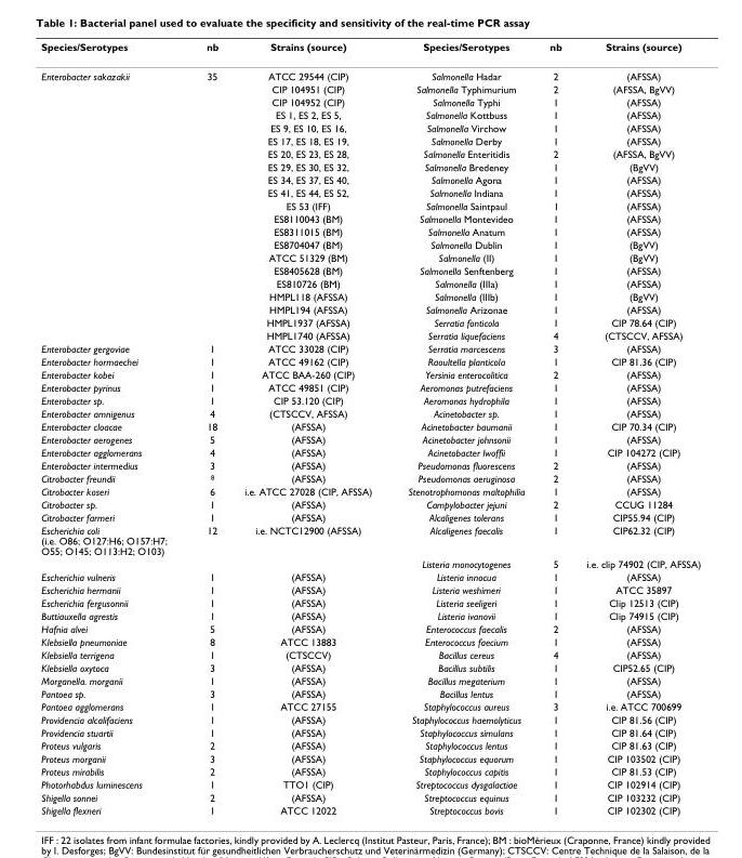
<table><thead><tr><td>Species/Serotypes</td><td>nb</td><td>Strains (source)</td><td>Species/Serotypes</td><td>nb</td><td>Strains (source)</td></tr></thead><tbody><tr><td rowspan="21">Enterobacter sakazakii</td><td>35</td><td>ATCC 29544 (CIP)</td><td>Salmonella Hadar</td><td>2</td><td>(AFSSA)</td></tr><tr><td></td><td>CIP 104951 (CIP)</td><td>Salmonella Typhimurium</td><td>2</td><td>(AFSSA, BgVV)</td></tr><tr><td></td><td>CIP 104952 (CIP)</td><td>Salmonella Typhi</td><td>1</td><td>(AFSSA)</td></tr><tr><td></td><td>ES 1, ES 2, ES 5,</td><td>Salmonella Kottbuss</td><td>1</td><td>(AFSSA)</td></tr><tr><td></td><td>ES 9, ES 10, ES 16,</td><td>Salmonella Virchow</td><td>1</td><td>(AFSSA)</td></tr><tr><td></td><td>ES 17, ES 18, ES 19,</td><td>Salmonella Derby</td><td>1</td><td>(AFSSA)</td></tr><tr><td></td><td>ES 20, ES 23, ES 28,</td><td>Salmonella Enteritidis</td><td>2</td><td>(AFSSA, BgVV)</td></tr><tr><td></td><td>ES 29, ES 30, ES 32,</td><td>Salmonella Bredeney</td><td>1</td><td>(BgVV)</td></tr><tr><td></td><td>ES 34, ES 37, ES 40,</td><td>Salmonella Agona</td><td>1</td><td>(AFSSA)</td></tr><tr><td></td><td>ES 41, ES 44, ES 52,</td><td>Salmonella Indiana</td><td>1</td><td>(AFSSA)</td></tr><tr><td></td><td>ES 53 (IFF)</td><td>Salmonella Saintpaul</td><td>1</td><td>(AFSSA)</td></tr><tr><td></td><td>ES8110043 (BM)</td><td>Salmonella Montevideo</td><td>1</td><td>(AFSSA)</td></tr><tr><td></td><td>ES8311015 (BM)</td><td>Salmonella Anatum</td><td>1</td><td>(AFSSA)</td></tr><tr><td></td><td>ES8704047 (BM)</td><td>Salmonella Dublin</td><td>1</td><td>(BgVV)</td></tr><tr><td></td><td>ATCC 51329 (BM)</td><td>Salmonella (II)</td><td>1</td><td>(BgVV)</td></tr><tr><td></td><td>ES8405628 (BM)</td><td>Salmonella Senftenberg</td><td>1</td><td>(AFSSA)</td></tr><tr><td></td><td>ES810726 (BM)</td><td>Salmonella (IIIa)</td><td>1</td><td>(AFSSA)</td></tr><tr><td></td><td>HMPL118 (AFSSA)</td><td>Salmonella (IIIb)</td><td>1</td><td>(BgVV)</td></tr><tr><td></td><td>HMPL194 (AFSSA)</td><td>Salmonella Arizonae</td><td>1</td><td>(AFSSA)</td></tr><tr><td></td><td>HMPL1937 (AFSSA)</td><td>Serratia fonticola</td><td>1</td><td>CIP 78.64 (CIP)</td></tr><tr><td></td><td>HMPL1740 (AFSSA)</td><td>Serratia liquefaciens</td><td>4</td><td>(CTSCCV, AFSSA)</td></tr><tr><td>Enterobacter gergoviae</td><td>1</td><td>ATCC 33028 (CIP)</td><td>Serratia marcescens</td><td>3</td><td>(AFSSA)</td></tr><tr><td>Enterobacter hormaechei</td><td>1</td><td>ATCC 49162 (CIP)</td><td>Raoultella planticola</td><td>1</td><td>CIP 81.36 (CIP)</td></tr><tr><td>Enterobacter kobei</td><td>1</td><td>ATCC BAA-260 (CIP)</td><td>Yersinia enterocolitica</td><td>2</td><td>(AFSSA)</td></tr><tr><td>Enterobacter pyrinus</td><td>1</td><td>ATCC 49851 (CIP)</td><td>Aeromonas putrefaciens</td><td>1</td><td>(AFSSA)</td></tr><tr><td>Enterobacter sp.</td><td>1</td><td>CIP 53.120 (CIP)</td><td>Aeromonas hydrophila</td><td>1</td><td>(AFSSA)</td></tr><tr><td>Enterobacter amnigenus</td><td>4</td><td>(CTSCCV, AFSSA)</td><td>Acinetobacter sp.</td><td>1</td><td>(AFSSA)</td></tr><tr><td>Enterobacter cloacae</td><td>18</td><td>(AFSSA)</td><td>Acinetobacter baumanii</td><td>1</td><td>CIP 70.34 (CIP)</td></tr><tr><td>Enterobacter aerogenes</td><td>5</td><td>(AFSSA)</td><td>Acinetobacter johnsonii</td><td>1</td><td>(AFSSA)</td></tr><tr><td>Enterobacter agglomerans</td><td>4</td><td>(AFSSA)</td><td>Acinetobacter lwoffii</td><td>1</td><td>CIP 104272 (CIP)</td></tr><tr><td>Enterobacter intermedius</td><td>3</td><td>(AFSSA)</td><td>Pseudomonas fluorescens</td><td>2</td><td>(AFSSA)</td></tr><tr><td>Citrobacter freundii</td><td>8</td><td>(AFSSA)</td><td>Pseudomonas aeruginosa</td><td>2</td><td>(AFSSA)</td></tr><tr><td>Citrobacter koseri</td><td>6</td><td>i.e. ATCC 27028 (CIP, AFSSA)</td><td>Stenotrophomonas maltophilia</td><td>1</td><td>(AFSSA)</td></tr><tr><td>Citrobacter sp.</td><td>1</td><td>(AFSSA)</td><td>Campylobacter jejuni</td><td>2</td><td>CCUG 11284</td></tr><tr><td>Citrobacter farmeri</td><td>1</td><td>(AFSSA)</td><td>Alcaligenes tolerans</td><td>1</td><td>CIP55.94 (CIP)</td></tr><tr><td rowspan="2">Escherichia coli (i.e. O86; O127:H6; O157:H7; O55; O145; O113:H2; O103)</td><td>12</td><td>i.e. NCTC12900 (AFSSA)</td><td>Alcaligenes faecalis</td><td>1</td><td>CIP62.32 (CIP)</td></tr><tr><td></td><td></td><td>Listeria monocytogenes</td><td>5</td><td>i.e. clip 74902 (CIP, AFSSA)</td></tr><tr><td>Escherichia vulneris</td><td>1</td><td>(AFSSA)</td><td>Listeria innocua</td><td>1</td><td>(AFSSA)</td></tr><tr><td>Escherichia hermanii</td><td>1</td><td>(AFSSA)</td><td>Listeria weshimeri</td><td>1</td><td>ATCC 35897</td></tr><tr><td>Escherichia fergusonnii</td><td>1</td><td>(AFSSA)</td><td>Listeria seeligeri</td><td>1</td><td>Clip 12513 (CIP)</td></tr><tr><td>Buttiauxella agrestis</td><td>1</td><td>(AFSSA)</td><td>Listeria ivanovii</td><td>1</td><td>Clip 74915 (CIP)</td></tr><tr><td>Hafnia alvei</td><td>5</td><td>(AFSSA)</td><td>Enterococcus faecalis</td><td>2</td><td>(AFSSA)</td></tr><tr><td>Klebsiella pneumoniae</td><td>8</td><td>ATCC 13883</td><td>Enterococcus faecium</td><td>1</td><td>(AFSSA)</td></tr><tr><td>Klebsiella terrigena</td><td>1</td><td>(CTSCCV)</td><td>Bacillus cereus</td><td>4</td><td>(AFSSA)</td></tr><tr><td>Klebsiella oxytoca</td><td>3</td><td>(AFSSA)</td><td>Bacillus subtilis</td><td>1</td><td>CIP52.65 (CIP)</td></tr><tr><td>Morganella. morganii</td><td>1</td><td>(AFSSA)</td><td>Bacillus megaterium</td><td>1</td><td>(AFSSA)</td></tr><tr><td>Pantoea sp.</td><td>3</td><td>(AFSSA)</td><td>Bacillus lentus</td><td>1</td><td>(AFSSA)</td></tr><tr><td>Pantoea agglomerans</td><td>1</td><td>ATCC 27155</td><td>Staphylococcus aureus</td><td>3</td><td>i.e. ATCC 700699</td></tr><tr><td>Providencia alcalifaciens</td><td>1</td><td>(AFSSA)</td><td>Staphylococcus haemolyticus</td><td>1</td><td>CIP 81.56 (CIP)</td></tr><tr><td>Providencia stuartii</td><td>1</td><td>(AFSSA)</td><td>Staphylococcus simulans</td><td>1</td><td>CIP 81.64 (CIP)</td></tr><tr><td>Proteus vulgaris</td><td>2</td><td>(AFSSA)</td><td>Staphylococcus lentus</td><td>1</td><td>CIP 81.63 (CIP)</td></tr><tr><td>Proteus morganii</td><td>3</td><td>(AFSSA)</td><td>Staphylococcus equorum</td><td>1</td><td>CIP 103502 (CIP)</td></tr><tr><td>Proteus mirabilis</td><td>2</td><td>(AFSSA)</td><td>Staphylococcus capitis</td><td>1</td><td>CIP 81.53 (CIP)</td></tr><tr><td>Photorhabdus luminescens</td><td>1</td><td>TTO1 (CIP)</td><td>Streptococcus dysgalactiae</td><td>1</td><td>CIP 102914 (CIP)</td></tr><tr><td>Shigella sonnei</td><td>2</td><td>(AFSSA)</td><td>Streptococcus equinus</td><td>1</td><td>CIP 103232 (CIP)</td></tr><tr><td>Shigella flexneri</td><td>1</td><td>ATCC 12022</td><td>Streptococcus bovis</td><td>1</td><td>CIP 102302 (CIP)</td></tr></tbody></table>